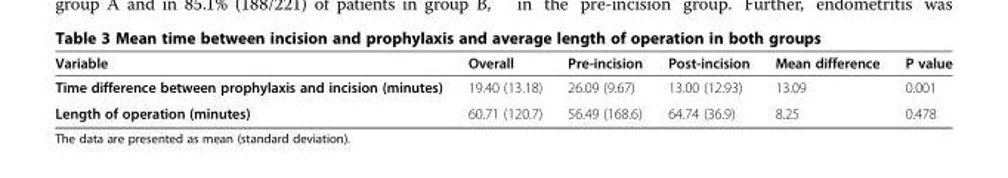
<table><thead><tr><td>Variable</td><td>Overall</td><td>Pre-incision</td><td>Post-incision</td><td>Mean difference</td><td>P value</td></tr></thead><tbody><tr><td>Time difference between prophylaxis and incision (minutes)</td><td>19.40 (13.18)</td><td>26.09 (9.67)</td><td>13.00 (12.93)</td><td>13.09</td><td>0.001</td></tr><tr><td>Length of operation (minutes)</td><td>60.71 (120.7)</td><td>56.49 (168.6)</td><td>64.74 (36.9)</td><td>8.25</td><td>0.478</td></tr></tbody></table>